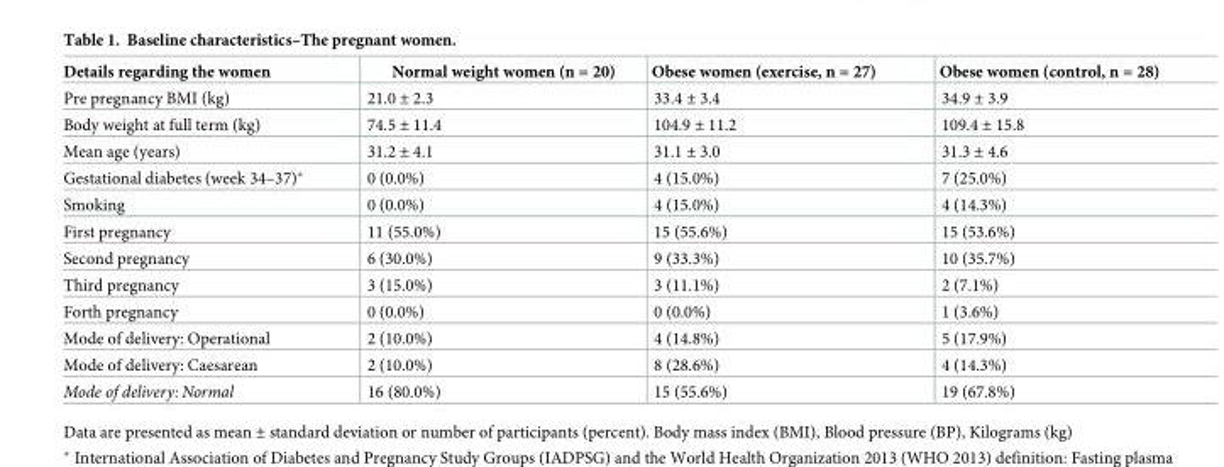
<table><thead><tr><td>Details regarding the women</td><td>Normal weight women (n = 20)</td><td>Obese women (exercise, n = 27)</td><td>Obese women (control, n = 28)</td></tr></thead><tbody><tr><td>Pre pregnancy BMI (kg)</td><td>21.0 ± 2.3</td><td>33.4 ± 3.4</td><td>34.9 ± 3.9</td></tr><tr><td>Body weight at full term (kg)</td><td>74.5 ± 11.4</td><td>104.9 ± 11.2</td><td>109.4 ± 15.8</td></tr><tr><td>Mean age (years)</td><td>31.2 ± 4.1</td><td>31.1 ± 3.0</td><td>31.3 ± 4.6</td></tr><tr><td>Gestational diabetes (week 34–37)*</td><td>0 (0.0%)</td><td>4 (15.0%)</td><td>7 (25.0%)</td></tr><tr><td>Smoking</td><td>0 (0.0%)</td><td>4 (15.0%)</td><td>4 (14.3%)</td></tr><tr><td>First pregnancy</td><td>11 (55.0%)</td><td>15 (55.6%)</td><td>15 (53.6%)</td></tr><tr><td>Second pregnancy</td><td>6 (30.0%)</td><td>9 (33.3%)</td><td>10 (35.7%)</td></tr><tr><td>Third pregnancy</td><td>3 (15.0%)</td><td>3 (11.1%)</td><td>2 (7.1%)</td></tr><tr><td>Forth pregnancy</td><td>0 (0.0%)</td><td>0 (0.0%)</td><td>1 (3.6%)</td></tr><tr><td>Mode of delivery: Operational</td><td>2 (10.0%)</td><td>4 (14.8%)</td><td>5 (17.9%)</td></tr><tr><td>Mode of delivery: Caesarean</td><td>2 (10.0%)</td><td>8 (28.6%)</td><td>4 (14.3%)</td></tr><tr><td>Mode of delivery: Normal</td><td>16 (80.0%)</td><td>15 (55.6%)</td><td>19 (67.8%)</td></tr></tbody></table>